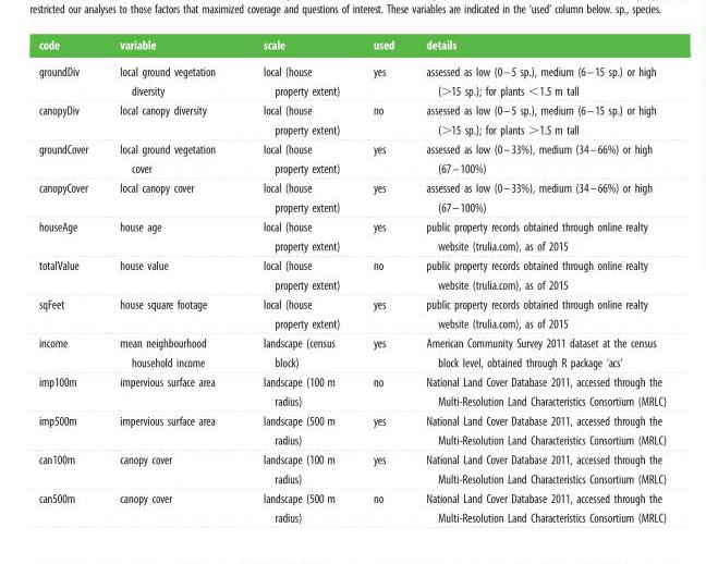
<table><thead><tr><td>code</td><td>variable</td><td>scale</td><td>used</td><td>details</td></tr></thead><tbody><tr><td>groundDiv</td><td>local ground vegetation diversity</td><td>local (house property extent)</td><td>yes</td><td>assessed as low (0–5 sp.), medium (6–15 sp.) or high (&gt;15 sp.); for plants &lt;1.5 m tall</td></tr><tr><td>canopyDiv</td><td>local canopy diversity</td><td>local (house property extent)</td><td>no</td><td>assessed as low (0–5 sp.), medium (6–15 sp.) or high (&gt;15 sp.); for plants &gt;1.5 m tall</td></tr><tr><td>groundCover</td><td>local ground vegetation cover</td><td>local (house property extent)</td><td>yes</td><td>assessed as low (0–33%), medium (34–66%) or high (67–100%)</td></tr><tr><td>canopyCover</td><td>local canopy cover</td><td>local (house property extent)</td><td>yes</td><td>assessed as low (0–33%), medium (34–66%) or high (67–100%)</td></tr><tr><td>houseAge</td><td>house age</td><td>local (house property extent)</td><td>yes</td><td>public property records obtained through online realty website (trulia.com), as of 2015</td></tr><tr><td>totalValue</td><td>house value</td><td>local (house property extent)</td><td>no</td><td>public property records obtained through online realty website (trulia.com), as of 2015</td></tr><tr><td>sqFeet</td><td>house square footage</td><td>local (house property extent)</td><td>yes</td><td>public property records obtained through online realty website (trulia.com), as of 2015</td></tr><tr><td>income</td><td>mean neighbourhood household income</td><td>landscape (census block)</td><td>yes</td><td>American Community Survey 2011 dataset at the census block level, obtained through R package ‘acs’</td></tr><tr><td>imp100m</td><td>impervious surface area</td><td>landscape (100 m radius)</td><td>no</td><td>National Land Cover Database 2011, accessed through the Multi-Resolution Land Characteristics Consortium (MRLC)</td></tr><tr><td>imp500m</td><td>impervious surface area</td><td>landscape (500 m radius)</td><td>yes</td><td>National Land Cover Database 2011, accessed through the Multi-Resolution Land Characteristics Consortium (MRLC)</td></tr><tr><td>can100m</td><td>canopy cover</td><td>landscape (100 m radius)</td><td>yes</td><td>National Land Cover Database 2011, accessed through the Multi-Resolution Land Characteristics Consortium (MRLC)</td></tr><tr><td>can500m</td><td>canopy cover</td><td>landscape (500 m radius)</td><td>no</td><td>National Land Cover Database 2011, accessed through the Multi-Resolution Land Characteristics Consortium (MRLC)</td></tr></tbody></table>